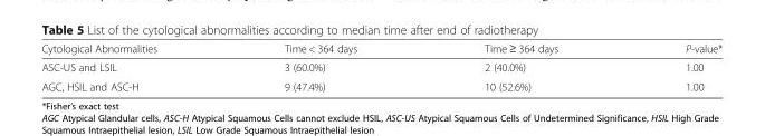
<table><thead><tr><td>Cytological Abnormalities</td><td>Time &lt; 364 days</td><td>Time ≥ 364 days</td><td>P-value*</td></tr></thead><tbody><tr><td>ASC-US and LSIL</td><td>3 (60.0%)</td><td>2 (40.0%)</td><td>1.00</td></tr><tr><td>AGC, HSIL and ASC-H</td><td>9 (47.4%)</td><td>10 (52.6%)</td><td>1.00</td></tr></tbody></table>